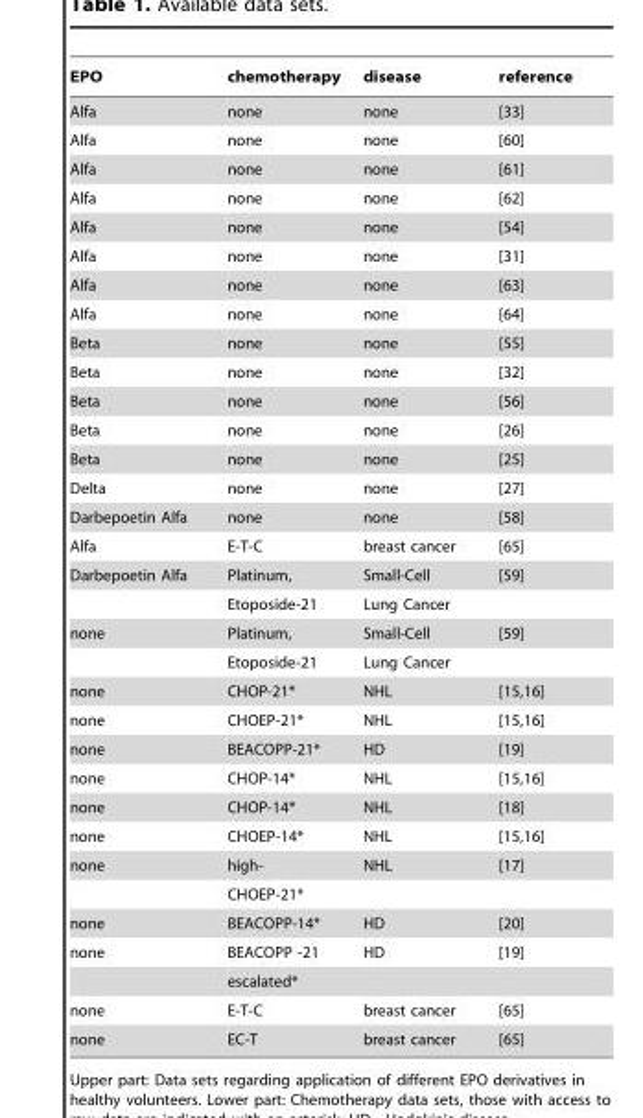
<table><thead><tr><td>EPO</td><td>chemotherapy</td><td>disease</td><td>reference</td></tr></thead><tbody><tr><td>Alfa</td><td>none</td><td>none</td><td>[33]</td></tr><tr><td>Alfa</td><td>none</td><td>none</td><td>[60]</td></tr><tr><td>Alfa</td><td>none</td><td>none</td><td>[61]</td></tr><tr><td>Alfa</td><td>none</td><td>none</td><td>[62]</td></tr><tr><td>Alfa</td><td>none</td><td>none</td><td>[54]</td></tr><tr><td>Alfa</td><td>none</td><td>none</td><td>[31]</td></tr><tr><td>Alfa</td><td>none</td><td>none</td><td>[63]</td></tr><tr><td>Alfa</td><td>none</td><td>none</td><td>[64]</td></tr><tr><td>Beta</td><td>none</td><td>none</td><td>[55]</td></tr><tr><td>Beta</td><td>none</td><td>none</td><td>[32]</td></tr><tr><td>Beta</td><td>none</td><td>none</td><td>[56]</td></tr><tr><td>Beta</td><td>none</td><td>none</td><td>[26]</td></tr><tr><td>Beta</td><td>none</td><td>none</td><td>[25]</td></tr><tr><td>Delta</td><td>none</td><td>none</td><td>[27]</td></tr><tr><td>Darbepoetin Alfa</td><td>none</td><td>none</td><td>[58]</td></tr><tr><td>Alfa</td><td>E-T-C</td><td>breast cancer</td><td>[65]</td></tr><tr><td rowspan="2">Darbepoetin Alfa</td><td>Platinum,</td><td>Small-Cell</td><td>[59]</td></tr><tr><td>Etoposide-21</td><td>Lung Cancer</td><td></td></tr><tr><td rowspan="2">none</td><td>Platinum,</td><td>Small-Cell</td><td>[59]</td></tr><tr><td>Etoposide-21</td><td>Lung Cancer</td><td></td></tr><tr><td>none</td><td>CHOP-21*</td><td>NHL</td><td>[15,16]</td></tr><tr><td>none</td><td>CHOEP-21*</td><td>NHL</td><td>[15,16]</td></tr><tr><td>none</td><td>BEACOPP-21*</td><td>HD</td><td>[19]</td></tr><tr><td>none</td><td>CHOP-14*</td><td>NHL</td><td>[15,16]</td></tr><tr><td>none</td><td>CHOP-14*</td><td>NHL</td><td>[18]</td></tr><tr><td>none</td><td>CHOEP-14*</td><td>NHL</td><td>[15,16]</td></tr><tr><td rowspan="2">none</td><td>high-</td><td>NHL</td><td>[17]</td></tr><tr><td>CHOEP-21*</td><td></td><td></td></tr><tr><td>none</td><td>BEACOPP-14*</td><td>HD</td><td>[20]</td></tr><tr><td rowspan="2">none</td><td>BEACOPP -21</td><td>HD</td><td>[19]</td></tr><tr><td>escalated*</td><td></td><td></td></tr><tr><td>none</td><td>E-T-C</td><td>breast cancer</td><td>[65]</td></tr><tr><td>none</td><td>EC-T</td><td>breast cancer</td><td>[65]</td></tr></tbody></table>